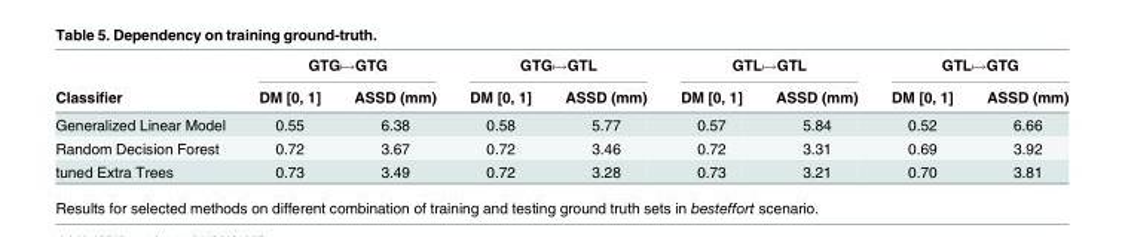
<table><thead><tr><td rowspan="2">Classifier</td><td colspan="2">GTG7!GTG</td><td colspan="2">GTG7!GTL</td><td colspan="2">GTL7!GTL</td><td colspan="2">GTL7!GTG</td></tr><tr><td>DM [0, 1]</td><td>ASSD (mm)</td><td>DM [0, 1]</td><td>ASSD (mm)</td><td>DM [0, 1]</td><td>ASSD (mm)</td><td>DM [0, 1]</td><td>ASSD (mm)</td></tr></thead><tbody><tr><td>Generalized Linear Model</td><td>0.55</td><td>6.38</td><td>0.58</td><td>5.77</td><td>0.57</td><td>5.84</td><td>0.52</td><td>6.66</td></tr><tr><td>Random Decision Forest</td><td>0.72</td><td>3.67</td><td>0.72</td><td>3.46</td><td>0.72</td><td>3.31</td><td>0.69</td><td>3.92</td></tr><tr><td>tuned Extra Trees</td><td>0.73</td><td>3.49</td><td>0.72</td><td>3.28</td><td>0.73</td><td>3.21</td><td>0.70</td><td>3.81</td></tr></tbody></table>